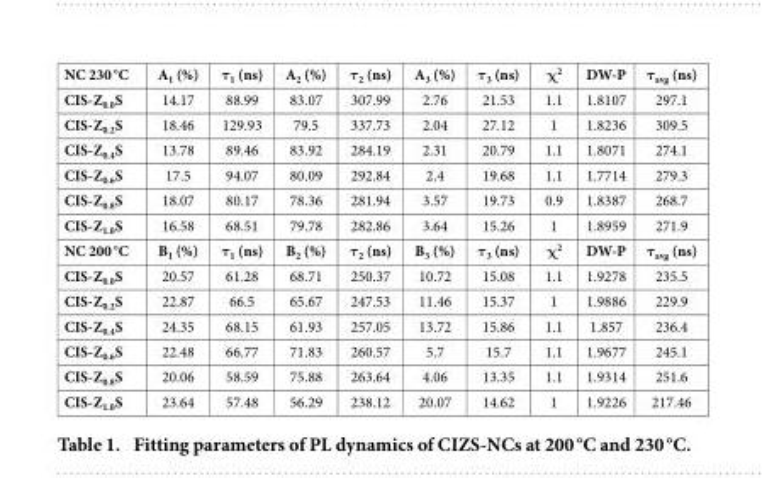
<table><tbody><tr><td>NC 230 °C</td><td>A<sub>1</sub> (%)</td><td>τ<sub>1</sub> (ns)</td><td>A<sub>2</sub> (%)</td><td>τ<sub>2</sub> (ns)</td><td>A<sub>3</sub> (%)</td><td>τ<sub>3</sub> (ns)</td><td>χ<sup>2</sup></td><td>DW-P</td><td>τ<sub>avg</sub> (ns)</td></tr><tr><td>CIS-Z<sub>0.0</sub>S</td><td>14.17</td><td>88.99</td><td>83.07</td><td>307.99</td><td>2.76</td><td>21.53</td><td>1.1</td><td>1.8107</td><td>297.1</td></tr><tr><td>CIS-Z<sub>0.2</sub>S</td><td>18.46</td><td>129.93</td><td>79.5</td><td>337.73</td><td>2.04</td><td>27.12</td><td>1</td><td>1.8236</td><td>309.5</td></tr><tr><td>CIS-Z<sub>0.4</sub>S</td><td>13.78</td><td>89.46</td><td>83.92</td><td>284.19</td><td>2.31</td><td>20.79</td><td>1.1</td><td>1.8071</td><td>274.1</td></tr><tr><td>CIS-Z<sub>0.6</sub>S</td><td>17.5</td><td>94.07</td><td>80.09</td><td>292.84</td><td>2.4</td><td>19.68</td><td>1.1</td><td>1.7714</td><td>279.3</td></tr><tr><td>CIS-Z<sub>0.8</sub>S</td><td>18.07</td><td>80.17</td><td>78.36</td><td>281.94</td><td>3.57</td><td>19.73</td><td>0.9</td><td>1.8387</td><td>268.7</td></tr><tr><td>CIS-Z<sub>1.0</sub>S</td><td>16.58</td><td>68.51</td><td>79.78</td><td>282.86</td><td>3.64</td><td>15.26</td><td>1</td><td>1.8959</td><td>271.9</td></tr><tr><td>NC 200 °C</td><td>B<sub>1</sub> (%)</td><td>τ<sub>1</sub> (ns)</td><td>B<sub>2</sub> (%)</td><td>τ<sub>2</sub> (ns)</td><td>B<sub>3</sub> (%)</td><td>τ<sub>3</sub> (ns)</td><td>χ<sup>2</sup></td><td>DW-P</td><td>τ<sub>avg</sub> (ns)</td></tr><tr><td>CIS-Z<sub>0.0</sub>S</td><td>20.57</td><td>61.28</td><td>68.71</td><td>250.37</td><td>10.72</td><td>15.08</td><td>1.1</td><td>1.9278</td><td>235.5</td></tr><tr><td>CIS-Z<sub>0.2</sub>S</td><td>22.87</td><td>66.5</td><td>65.67</td><td>247.53</td><td>11.46</td><td>15.37</td><td>1</td><td>1.9886</td><td>229.9</td></tr><tr><td>CIS-Z<sub>0.4</sub>S</td><td>24.35</td><td>68.15</td><td>61.93</td><td>257.05</td><td>13.72</td><td>15.86</td><td>1.1</td><td>1.857</td><td>236.4</td></tr><tr><td>CIS-Z<sub>0.6</sub>S</td><td>22.48</td><td>66.77</td><td>71.83</td><td>260.57</td><td>5.7</td><td>15.7</td><td>1.1</td><td>1.9677</td><td>245.1</td></tr><tr><td>CIS-Z<sub>0.8</sub>S</td><td>20.06</td><td>58.59</td><td>75.88</td><td>263.64</td><td>4.06</td><td>13.35</td><td>1.1</td><td>1.9314</td><td>251.6</td></tr><tr><td>CIS-Z<sub>1.0</sub>S</td><td>23.64</td><td>57.48</td><td>56.29</td><td>238.12</td><td>20.07</td><td>14.62</td><td>1</td><td>1.9226</td><td>217.46</td></tr></tbody></table>